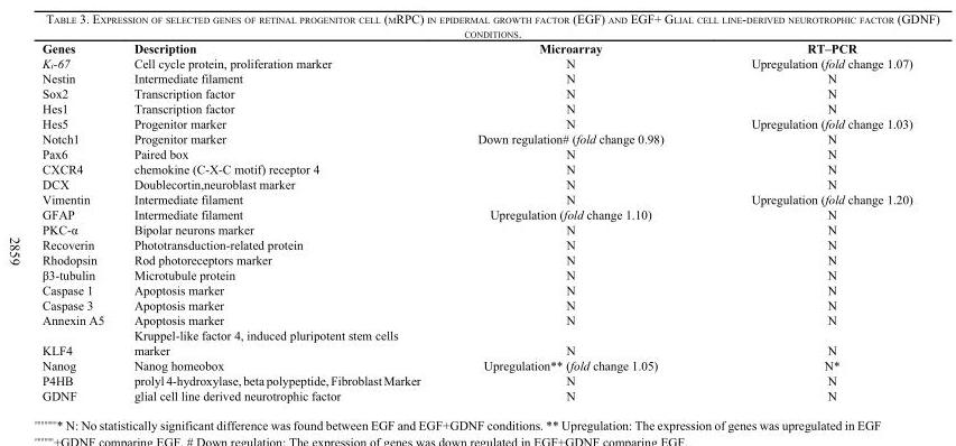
<table><thead><tr><td>Genes</td><td>Description</td><td>Microarray</td><td>RT–PCR</td></tr></thead><tbody><tr><td>K<sub>i</sub>-67</td><td>Cell cycle protein, proliferation marker</td><td>N</td><td>Upregulation (fold change 1.07)</td></tr><tr><td>Nestin</td><td>Intermediate filament</td><td>N</td><td>N</td></tr><tr><td>Sox2</td><td>Transcription factor</td><td>N</td><td>N</td></tr><tr><td>Hes1</td><td>Transcription factor</td><td>N</td><td>N</td></tr><tr><td>Hes5</td><td>Progenitor marker</td><td>N</td><td>Upregulation (fold change 1.03)</td></tr><tr><td>Notch1</td><td>Progenitor marker</td><td>Down regulation# (fold change 0.98)</td><td>N</td></tr><tr><td>Pax6</td><td>Paired box</td><td>N</td><td>N</td></tr><tr><td>CXCR4</td><td>chemokine (C-X-C motif) receptor 4</td><td>N</td><td>N</td></tr><tr><td>DCX</td><td>Doublecortin,neuroblast marker</td><td>N</td><td>N</td></tr><tr><td>Vimentin</td><td>Intermediate filament</td><td>N</td><td>Upregulation (fold change 1.20)</td></tr><tr><td>GFAP</td><td>Intermediate filament</td><td>Upregulation (fold change 1.10)</td><td>N</td></tr><tr><td>PKC-α</td><td>Bipolar neurons marker</td><td>N</td><td>N</td></tr><tr><td>Recoverin</td><td>Phototransduction-related protein</td><td>N</td><td>N</td></tr><tr><td>Rhodopsin</td><td>Rod photoreceptors marker</td><td>N</td><td>N</td></tr><tr><td>β3-tubulin</td><td>Microtubule protein</td><td>N</td><td>N</td></tr><tr><td>Caspase 1</td><td>Apoptosis marker</td><td>N</td><td>N</td></tr><tr><td>Caspase 3</td><td>Apoptosis marker</td><td>N</td><td>N</td></tr><tr><td>Annexin A5</td><td>Apoptosis marker</td><td>N</td><td>N</td></tr><tr><td>KLF4</td><td>Kruppel-like factor 4, induced pluripotent stem cells marker</td><td>N</td><td>N</td></tr><tr><td>Nanog</td><td>Nanog homeobox</td><td>Upregulation** (fold change 1.05)</td><td>N*</td></tr><tr><td>P4HB</td><td>prolyl 4-hydroxylase, beta polypeptide, Fibroblast Marker</td><td>N</td><td>N</td></tr><tr><td>GDNF</td><td>glial cell line derived neurotrophic factor</td><td>N</td><td>N</td></tr></tbody></table>